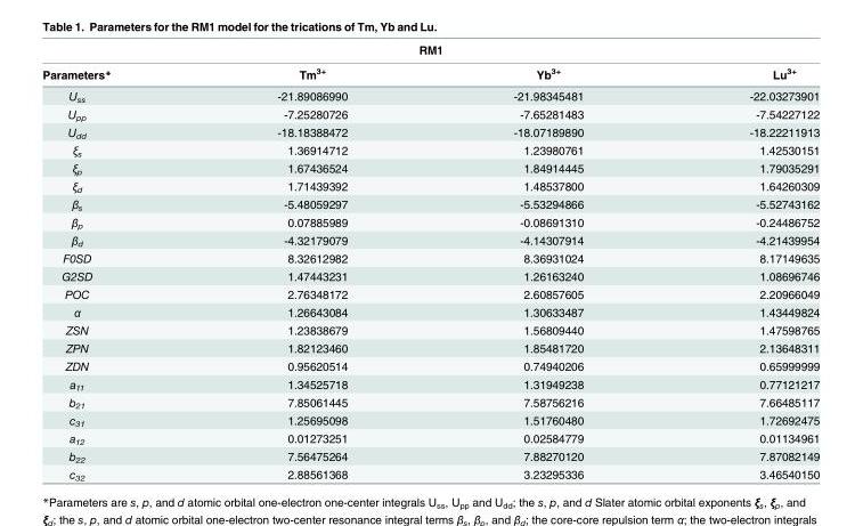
<table><thead><tr><td colspan="4">RM1</td></tr><tr><td>Parameters*</td><td>Tm<sup>3+</sup></td><td>Yb<sup>3+</sup></td><td>Lu<sup>3+</sup></td></tr></thead><tbody><tr><td>U<sub>ss</sub></td><td>-21.89086990</td><td>-21.98345481</td><td>-22.03273901</td></tr><tr><td>U<sub>pp</sub></td><td>-7.25280726</td><td>-7.65281483</td><td>-7.54227122</td></tr><tr><td>U<sub>dd</sub></td><td>-18.18388472</td><td>-18.07189890</td><td>-18.22211913</td></tr><tr><td>ξ<sub>s</sub></td><td>1.36914712</td><td>1.23980761</td><td>1.42530151</td></tr><tr><td>ξ<sub>p</sub></td><td>1.67436524</td><td>1.84914445</td><td>1.79035291</td></tr><tr><td>ξ<sub>d</sub></td><td>1.71439392</td><td>1.48537800</td><td>1.64260309</td></tr><tr><td>β<sub>s</sub></td><td>-5.48059297</td><td>-5.53294866</td><td>-5.52743162</td></tr><tr><td>β<sub>p</sub></td><td>0.07885989</td><td>-0.08691310</td><td>-0.24486752</td></tr><tr><td>β<sub>d</sub></td><td>-4.32179079</td><td>-4.14307914</td><td>-4.21439954</td></tr><tr><td>F0SD</td><td>8.32612982</td><td>8.36931024</td><td>8.17149635</td></tr><tr><td>G2SD</td><td>1.47443231</td><td>1.26163240</td><td>1.08696746</td></tr><tr><td>POC</td><td>2.76348172</td><td>2.60857605</td><td>2.20966049</td></tr><tr><td>α</td><td>1.26643084</td><td>1.30633487</td><td>1.43449824</td></tr><tr><td>ZSN</td><td>1.23838679</td><td>1.56809440</td><td>1.47598765</td></tr><tr><td>ZPN</td><td>1.82123460</td><td>1.85481720</td><td>2.13648311</td></tr><tr><td>ZDN</td><td>0.95620514</td><td>0.74940206</td><td>0.65999999</td></tr><tr><td>a<sub>11</sub></td><td>1.34525718</td><td>1.31949238</td><td>0.77121217</td></tr><tr><td>b<sub>21</sub></td><td>7.85061445</td><td>7.58756216</td><td>7.66485117</td></tr><tr><td>c<sub>31</sub></td><td>1.25695098</td><td>1.51760480</td><td>1.72692475</td></tr><tr><td>a<sub>12</sub></td><td>0.01273251</td><td>0.02584779</td><td>0.01134961</td></tr><tr><td>b<sub>22</sub></td><td>7.56475264</td><td>7.88270120</td><td>7.87082149</td></tr><tr><td>c<sub>32</sub></td><td>2.88561368</td><td>3.23295336</td><td>3.46540150</td></tr></tbody></table>